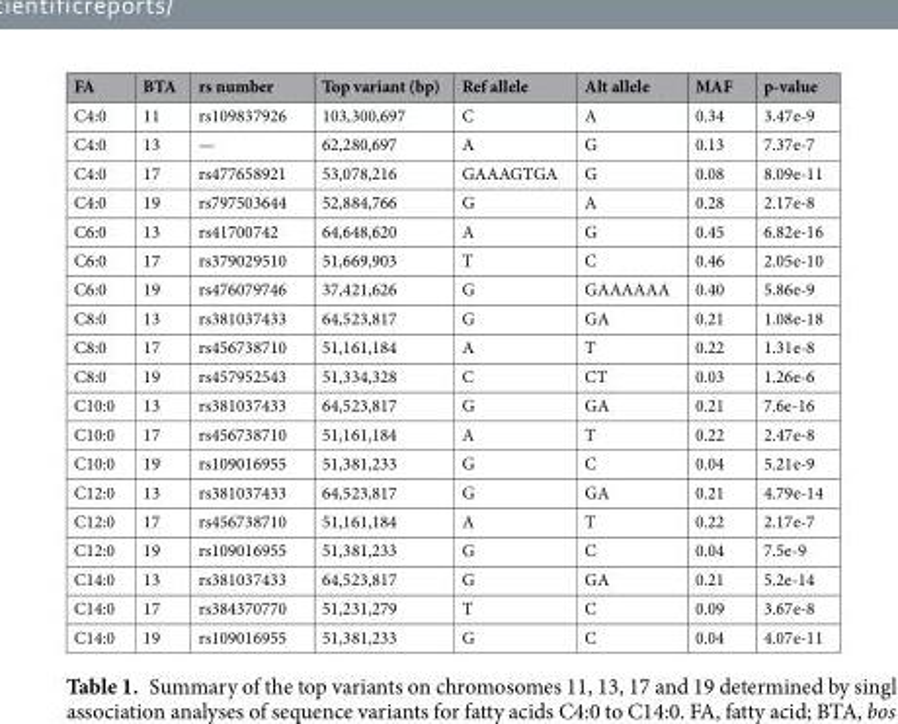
<table><thead><tr><td>FA</td><td>BTA</td><td>rs number</td><td>Top variant (bp)</td><td>Ref allele</td><td>Alt allele</td><td>MAF</td><td>p-value</td></tr></thead><tbody><tr><td>C4:0</td><td>11</td><td>rs109837926</td><td>103,300,697</td><td>C</td><td>A</td><td>0.34</td><td>3.47e-9</td></tr><tr><td>C4:0</td><td>13</td><td>—</td><td>62,280,697</td><td>A</td><td>G</td><td>0.13</td><td>7.37e-7</td></tr><tr><td>C4:0</td><td>17</td><td>rs477658921</td><td>53,078,216</td><td>GAAAGTGA</td><td>G</td><td>0.08</td><td>8.09e-11</td></tr><tr><td>C4:0</td><td>19</td><td>rs797503644</td><td>52,884,766</td><td>G</td><td>A</td><td>0.28</td><td>2.17e-8</td></tr><tr><td>C6:0</td><td>13</td><td>rs41700742</td><td>64,648,620</td><td>A</td><td>G</td><td>0.45</td><td>6.82e-16</td></tr><tr><td>C6:0</td><td>17</td><td>rs379029510</td><td>51,669,903</td><td>T</td><td>C</td><td>0.46</td><td>2.05e-10</td></tr><tr><td>C6:0</td><td>19</td><td>rs476079746</td><td>37,421,626</td><td>G</td><td>GAAAAAA</td><td>0.40</td><td>5.86e-9</td></tr><tr><td>C8:0</td><td>13</td><td>rs381037433</td><td>64,523,817</td><td>G</td><td>GA</td><td>0.21</td><td>1.08e-18</td></tr><tr><td>C8:0</td><td>17</td><td>rs456738710</td><td>51,161,184</td><td>A</td><td>T</td><td>0.22</td><td>1.31e-8</td></tr><tr><td>C8:0</td><td>19</td><td>rs457952543</td><td>51,334,328</td><td>C</td><td>CT</td><td>0.03</td><td>1.26e-6</td></tr><tr><td>C10:0</td><td>13</td><td>rs381037433</td><td>64,523,817</td><td>G</td><td>GA</td><td>0.21</td><td>7.6e-16</td></tr><tr><td>C10:0</td><td>17</td><td>rs456738710</td><td>51,161,184</td><td>A</td><td>T</td><td>0.22</td><td>2.47e-8</td></tr><tr><td>C10:0</td><td>19</td><td>rs109016955</td><td>51,381,233</td><td>G</td><td>C</td><td>0.04</td><td>5.21e-9</td></tr><tr><td>C12:0</td><td>13</td><td>rs381037433</td><td>64,523,817</td><td>G</td><td>GA</td><td>0.21</td><td>4.79e-14</td></tr><tr><td>C12:0</td><td>17</td><td>rs456738710</td><td>51,161,184</td><td>A</td><td>T</td><td>0.22</td><td>2.17e-7</td></tr><tr><td>C12:0</td><td>19</td><td>rs109016955</td><td>51,381,233</td><td>G</td><td>C</td><td>0.04</td><td>7.5e-9</td></tr><tr><td>C14:0</td><td>13</td><td>rs381037433</td><td>64,523,817</td><td>G</td><td>GA</td><td>0.21</td><td>5.2e-14</td></tr><tr><td>C14:0</td><td>17</td><td>rs384370770</td><td>51,231,279</td><td>T</td><td>C</td><td>0.09</td><td>3.67e-8</td></tr><tr><td>C14:0</td><td>19</td><td>rs109016955</td><td>51,381,233</td><td>G</td><td>C</td><td>0.04</td><td>4.07e-11</td></tr></tbody></table>